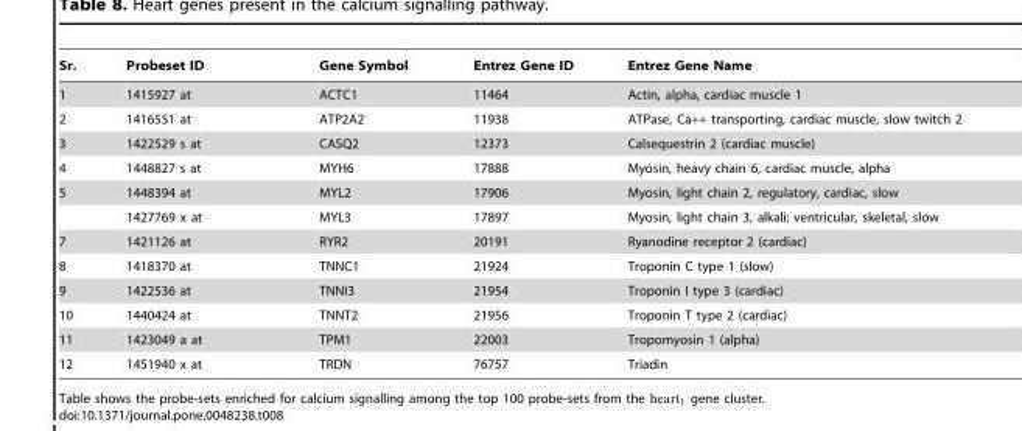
<table><thead><tr><td>Sr.</td><td>Probeset ID</td><td>Gene Symbol</td><td>Entrez Gene ID</td><td>Entrez Gene Name</td></tr></thead><tbody><tr><td>1</td><td>1415927 at</td><td>ACTC1</td><td>11464</td><td>Actin, alpha, cardiac muscle 1</td></tr><tr><td>2</td><td>1416551 at</td><td>ATP2A2</td><td>11938</td><td>ATPase, Ca++ transporting, cardiac muscle, slow twitch 2</td></tr><tr><td>3</td><td>1422529 s at</td><td>CASQ2</td><td>12373</td><td>Calsequestrin 2 (cardiac muscle)</td></tr><tr><td>4</td><td>1448827 s at</td><td>MYH6</td><td>17888</td><td>Myosin, heavy chain 6, cardiac muscle, alpha</td></tr><tr><td rowspan="2">5</td><td>1448394 at</td><td>MYL2</td><td>17906</td><td>Myosin, light chain 2, regulatory, cardiac, slow</td></tr><tr><td>1427769 x at</td><td>MYL3</td><td>17897</td><td>Myosin, light chain 3, alkali; ventricular, skeletal, slow</td></tr><tr><td>7</td><td>1421126 at</td><td>RYR2</td><td>20191</td><td>Ryanodine receptor 2 (cardiac)</td></tr><tr><td>8</td><td>1418370 at</td><td>TNNC1</td><td>21924</td><td>Troponin C type 1 (slow)</td></tr><tr><td>9</td><td>1422536 at</td><td>TNNI3</td><td>21954</td><td>Troponin I type 3 (cardiac)</td></tr><tr><td>10</td><td>1440424 at</td><td>TNNT2</td><td>21956</td><td>Troponin T type 2 (cardiac)</td></tr><tr><td>11</td><td>1423049 a at</td><td>TPM1</td><td>22003</td><td>Tropomyosin 1 (alpha)</td></tr><tr><td>12</td><td>1451940 x at</td><td>TRDN</td><td>76757</td><td>Triadin</td></tr></tbody></table>